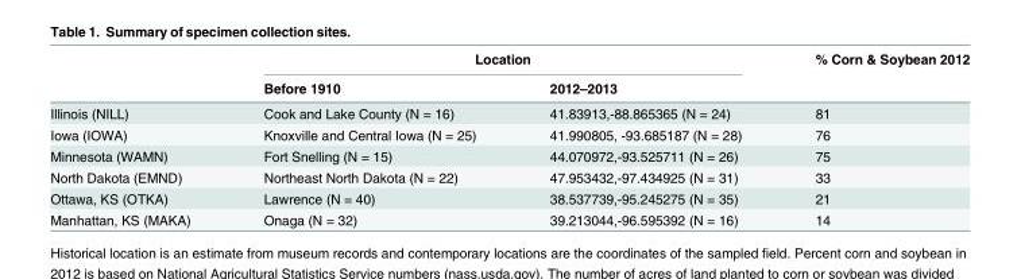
<table><thead><tr><td rowspan="2"></td><td colspan="2">Location</td><td rowspan="2">% Corn &amp; Soybean 2012</td></tr><tr><td>Before 1910</td><td>2012–2013</td></tr></thead><tbody><tr><td>Illinois (NILL)</td><td>Cook and Lake County (N = 16)</td><td>41.83913,-88.865365 (N = 24)</td><td>81</td></tr><tr><td>Iowa (IOWA)</td><td>Knoxville and Central Iowa (N = 25)</td><td>41.990805, -93.685187 (N = 28)</td><td>76</td></tr><tr><td>Minnesota (WAMN)</td><td>Fort Snelling (N = 15)</td><td>44.070972,-93.525711 (N = 26)</td><td>75</td></tr><tr><td>North Dakota (EMND)</td><td>Northeast North Dakota (N = 22)</td><td>47.953432,-97.434925 (N = 31)</td><td>33</td></tr><tr><td>Ottawa, KS (OTKA)</td><td>Lawrence (N = 40)</td><td>38.537739,-95.245275 (N = 35)</td><td>21</td></tr><tr><td>Manhattan, KS (MAKA)</td><td>Onaga (N = 32)</td><td>39.213044,-96.595392 (N = 16)</td><td>14</td></tr></tbody></table>